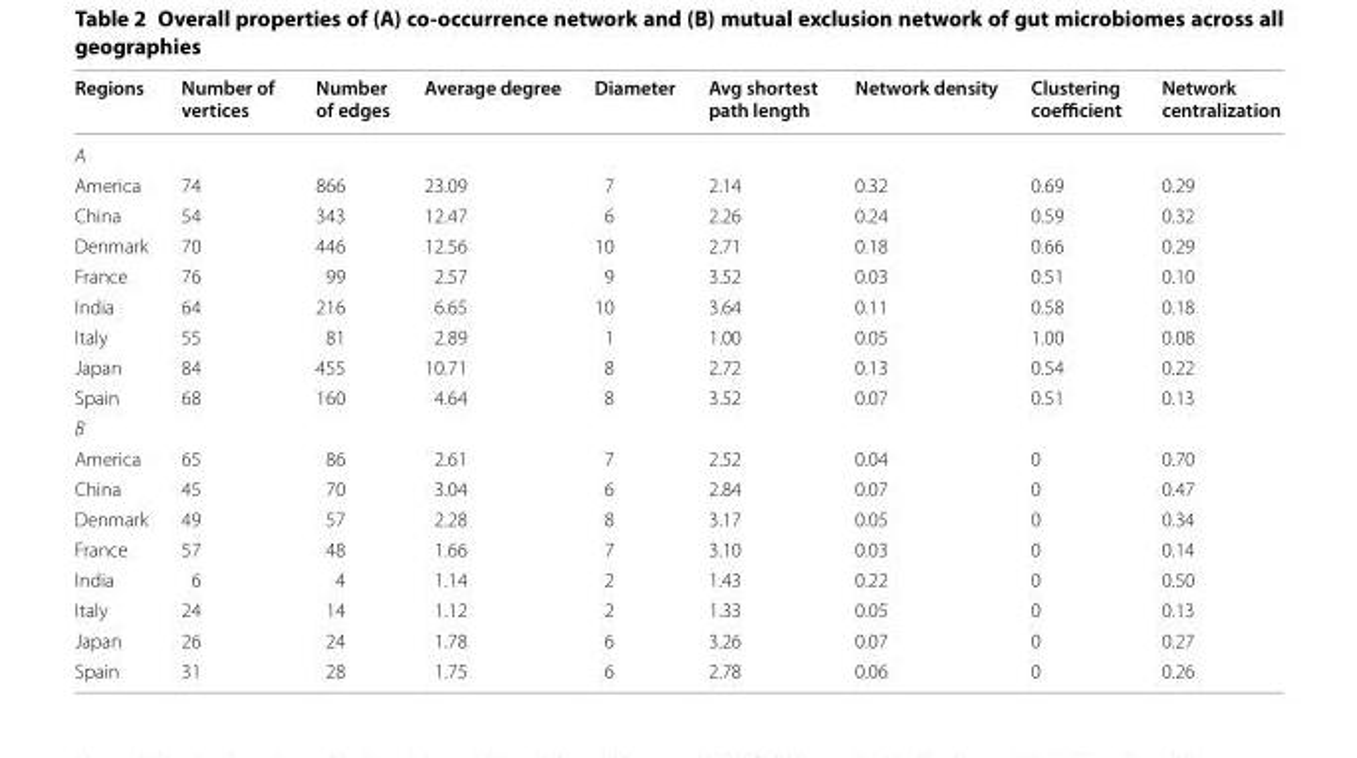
<table><thead><tr><td>Regions</td><td>Number of vertices</td><td>Number of edges</td><td>Average degree</td><td>Diameter</td><td>Avg shortest path length</td><td>Network density</td><td>Clustering coefficient</td><td>Network centralization</td></tr></thead><tbody><tr><td colspan="9">A</td></tr><tr><td>America</td><td>74</td><td>866</td><td>23.09</td><td>7</td><td>2.14</td><td>0.32</td><td>0.69</td><td>0.29</td></tr><tr><td>China</td><td>54</td><td>343</td><td>12.47</td><td>6</td><td>2.26</td><td>0.24</td><td>0.59</td><td>0.32</td></tr><tr><td>Denmark</td><td>70</td><td>446</td><td>12.56</td><td>10</td><td>2.71</td><td>0.18</td><td>0.66</td><td>0.29</td></tr><tr><td>France</td><td>76</td><td>99</td><td>2.57</td><td>9</td><td>3.52</td><td>0.03</td><td>0.51</td><td>0.10</td></tr><tr><td>India</td><td>64</td><td>216</td><td>6.65</td><td>10</td><td>3.64</td><td>0.11</td><td>0.58</td><td>0.18</td></tr><tr><td>Italy</td><td>55</td><td>81</td><td>2.89</td><td>1</td><td>1.00</td><td>0.05</td><td>1.00</td><td>0.08</td></tr><tr><td>Japan</td><td>84</td><td>455</td><td>10.71</td><td>8</td><td>2.72</td><td>0.13</td><td>0.54</td><td>0.22</td></tr><tr><td>Spain</td><td>68</td><td>160</td><td>4.64</td><td>8</td><td>3.52</td><td>0.07</td><td>0.51</td><td>0.13</td></tr><tr><td colspan="9">B</td></tr><tr><td>America</td><td>65</td><td>86</td><td>2.61</td><td>7</td><td>2.52</td><td>0.04</td><td>0</td><td>0.70</td></tr><tr><td>China</td><td>45</td><td>70</td><td>3.04</td><td>6</td><td>2.84</td><td>0.07</td><td>0</td><td>0.47</td></tr><tr><td>Denmark</td><td>49</td><td>57</td><td>2.28</td><td>8</td><td>3.17</td><td>0.05</td><td>0</td><td>0.34</td></tr><tr><td>France</td><td>57</td><td>48</td><td>1.66</td><td>7</td><td>3.10</td><td>0.03</td><td>0</td><td>0.14</td></tr><tr><td>India</td><td>6</td><td>4</td><td>1.14</td><td>2</td><td>1.43</td><td>0.22</td><td>0</td><td>0.50</td></tr><tr><td>Italy</td><td>24</td><td>14</td><td>1.12</td><td>2</td><td>1.33</td><td>0.05</td><td>0</td><td>0.13</td></tr><tr><td>Japan</td><td>26</td><td>24</td><td>1.78</td><td>6</td><td>3.26</td><td>0.07</td><td>0</td><td>0.27</td></tr><tr><td>Spain</td><td>31</td><td>28</td><td>1.75</td><td>6</td><td>2.78</td><td>0.06</td><td>0</td><td>0.26</td></tr></tbody></table>